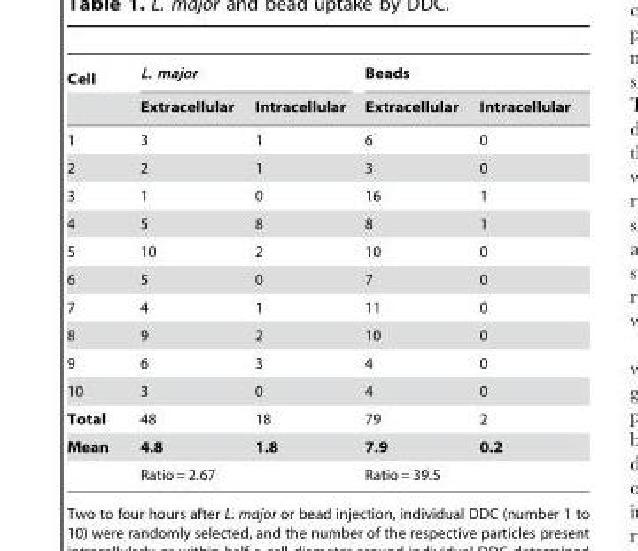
<table><thead><tr><td rowspan="2">Cell</td><td colspan="2">L. major</td><td colspan="2">Beads</td></tr><tr><td>Extracellular</td><td>Intracellular</td><td>Extracellular</td><td>Intracellular</td></tr></thead><tbody><tr><td>1</td><td>3</td><td>1</td><td>6</td><td>0</td></tr><tr><td>2</td><td>2</td><td>1</td><td>3</td><td>0</td></tr><tr><td>3</td><td>1</td><td>0</td><td>16</td><td>1</td></tr><tr><td>4</td><td>5</td><td>8</td><td>8</td><td>1</td></tr><tr><td>5</td><td>10</td><td>2</td><td>10</td><td>0</td></tr><tr><td>6</td><td>5</td><td>0</td><td>7</td><td>0</td></tr><tr><td>7</td><td>4</td><td>1</td><td>11</td><td>0</td></tr><tr><td>8</td><td>9</td><td>2</td><td>10</td><td>0</td></tr><tr><td>9</td><td>6</td><td>3</td><td>4</td><td>0</td></tr><tr><td>10</td><td>3</td><td>0</td><td>4</td><td>0</td></tr><tr><td>Total</td><td>48</td><td>18</td><td>79</td><td>2</td></tr><tr><td rowspan="2">Mean</td><td>4.8</td><td>1.8</td><td>7.9</td><td>0.2</td></tr><tr><td colspan="2">Ratio = 2.67</td><td colspan="2">Ratio = 39.5</td></tr></tbody></table>